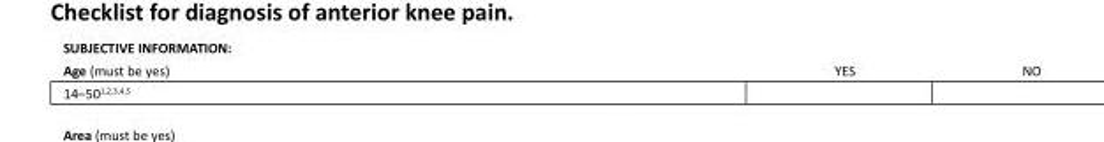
<table><tbody><tr><td>Age (must be yes)</td><td>YES</td><td>NO</td></tr></tbody></table>